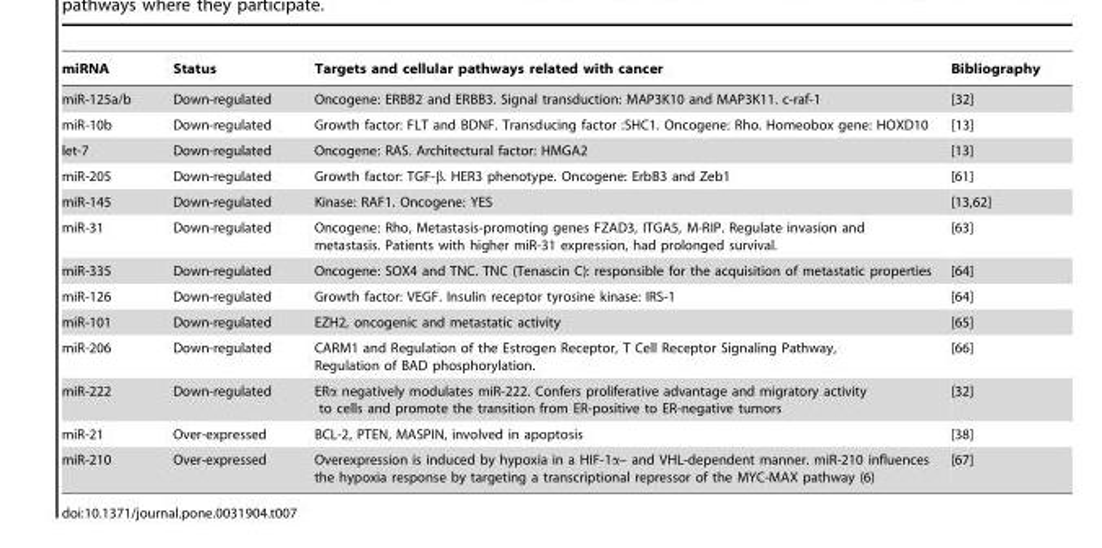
<table><thead><tr><td>miRNA</td><td>Status</td><td>Targets and cellular pathways related with cancer</td><td>Bibliography</td></tr></thead><tbody><tr><td>miR-125a/b</td><td>Down-regulated</td><td>Oncogene: ERBB2 and ERBB3. Signal transduction: MAP3K10 and MAP3K11. c-raf-1</td><td>[32]</td></tr><tr><td>miR-10b</td><td>Down-regulated</td><td>Growth factor: FLT and BDNF. Transducing factor :SHC1. Oncogene: Rho. Homeobox gene: HOXD10</td><td>[13]</td></tr><tr><td>let-7</td><td>Down-regulated</td><td>Oncogene: RAS. Architectural factor: HMGA2</td><td>[13]</td></tr><tr><td>miR-205</td><td>Down-regulated</td><td>Growth factor: TGF-β. HER3 phenotype. Oncogene: ErbB3 and Zeb1</td><td>[61]</td></tr><tr><td>miR-145</td><td>Down-regulated</td><td>Kinase: RAF1. Oncogene: YES</td><td>[13,62]</td></tr><tr><td>miR-31</td><td>Down-regulated</td><td>Oncogene: Rho, Metastasis-promoting genes FZAD3, ITGA5, M-RIP. Regulate invasion and metastasis. Patients with higher miR-31 expression, had prolonged survival.</td><td>[63]</td></tr><tr><td>miR-335</td><td>Down-regulated</td><td>Oncogene: SOX4 and TNC. TNC (Tenascin C): responsible for the acquisition of metastatic properties</td><td>[64]</td></tr><tr><td>miR-126</td><td>Down-regulated</td><td>Growth factor: VEGF. Insulin receptor tyrosine kinase: IRS-1</td><td>[64]</td></tr><tr><td>miR-101</td><td>Down-regulated</td><td>EZH2, oncogenic and metastatic activity</td><td>[65]</td></tr><tr><td>miR-206</td><td>Down-regulated</td><td>CARM1 and Regulation of the Estrogen Receptor, T Cell Receptor Signaling Pathway, Regulation of BAD phosphorylation.</td><td>[66]</td></tr><tr><td>miR-222</td><td>Down-regulated</td><td>ERα negatively modulates miR-222. Confers proliferative advantage and migratory activity to cells and promote the transition from ER-positive to ER-negative tumors</td><td>[32]</td></tr><tr><td>miR-21</td><td>Over-expressed</td><td>BCL-2, PTEN, MASPIN, involved in apoptosis</td><td>[38]</td></tr><tr><td>miR-210</td><td>Over-expressed</td><td>Overexpression is induced by hypoxia in a HIF-1α– and VHL-dependent manner. miR-210 influences the hypoxia response by targeting a transcriptional repressor of the MYC-MAX pathway (6)</td><td>[67]</td></tr></tbody></table>